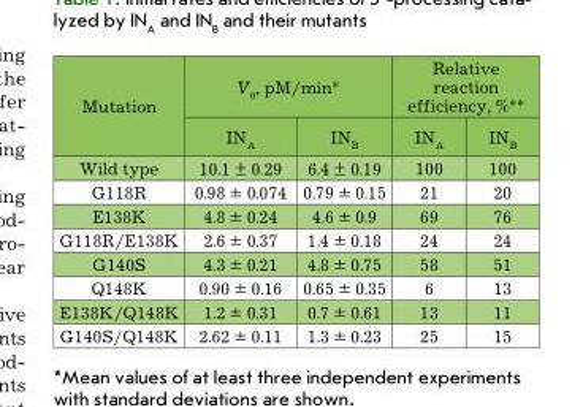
<table><thead><tr><td rowspan="2">Mutation</td><td colspan="2">V<sub>0</sub>, pM/min*</td><td colspan="2">Relative reaction efficiency, %**</td></tr><tr><td>IN<sub>A</sub></td><td>IN<sub>B</sub></td><td>IN<sub>A</sub></td><td>IN<sub>B</sub></td></tr></thead><tbody><tr><td>Wild type</td><td>10.1 ± 0.29</td><td>6.4 ± 0.19</td><td>100</td><td>100</td></tr><tr><td>G118R</td><td>0.98 ± 0.074</td><td>0.79 ± 0.15</td><td>21</td><td>20</td></tr><tr><td>E138K</td><td>4.8 ± 0.24</td><td>4.6 ± 0.9</td><td>69</td><td>76</td></tr><tr><td>G118R/E138K</td><td>2.6 ± 0.37</td><td>1.4 ± 0.18</td><td>24</td><td>24</td></tr><tr><td>G140S</td><td>4.3 ± 0.21</td><td>4.8 ± 0.75</td><td>58</td><td>51</td></tr><tr><td>Q148K</td><td>0.90 ± 0.16</td><td>0.65 ± 0.35</td><td>6</td><td>13</td></tr><tr><td>E138K/Q148K</td><td>1.2 ± 0.31</td><td>0.7 ± 0.61</td><td>13</td><td>11</td></tr><tr><td>G140S/Q148K</td><td>2.62 ± 0.11</td><td>1.3 ± 0.23</td><td>25</td><td>15</td></tr></tbody></table>